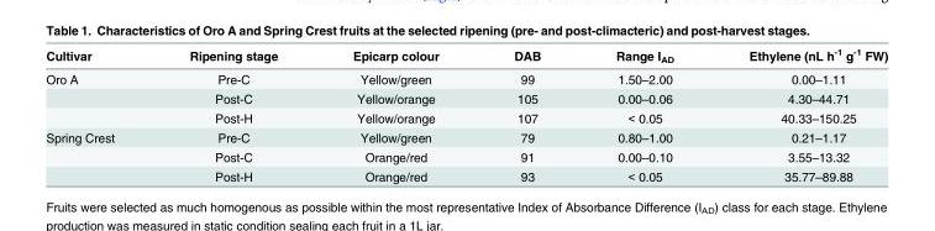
<table><thead><tr><td>Cultivar</td><td>Ripening stage</td><td>Epicarp colour</td><td>DAB</td><td>Range I<sub>AD</sub></td><td>Ethylene (nL h<sup>-1</sup> g<sup>-1</sup> FW)</td></tr></thead><tbody><tr><td rowspan="3">Oro A</td><td>Pre-C</td><td>Yellow/green</td><td>99</td><td>1.50–2.00</td><td>0.00–1.11</td></tr><tr><td>Post-C</td><td>Yellow/orange</td><td>105</td><td>0.00–0.06</td><td>4.30–44.71</td></tr><tr><td>Post-H</td><td>Yellow/orange</td><td>107</td><td>&lt; 0.05</td><td>40.33–150.25</td></tr><tr><td rowspan="3">Spring Crest</td><td>Pre-C</td><td>Yellow/green</td><td>79</td><td>0.80–1.00</td><td>0.21–1.17</td></tr><tr><td>Post-C</td><td>Orange/red</td><td>91</td><td>0.00–0.10</td><td>3.55–13.32</td></tr><tr><td>Post-H</td><td>Orange/red</td><td>93</td><td>&lt; 0.05</td><td>35.77–89.88</td></tr></tbody></table>